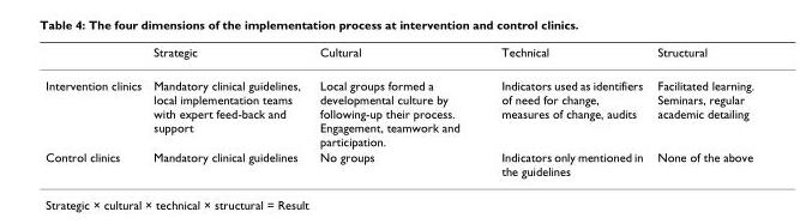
<table><thead><tr><td></td><td>Strategic</td><td>Cultural</td><td>Technical</td><td>Structural</td></tr></thead><tbody><tr><td>Intervention clinics</td><td>Mandatory clinical guidelines, local implementation teams with expert feed-back and support</td><td>Local groups formed a developmental culture by following-up their process. Engagement, teamwork and participation.</td><td>Indicators used as identifiers of need for change, measures of change, audits</td><td>Facilitated learning. Seminars, regular academic detailing</td></tr><tr><td>Control clinics</td><td>Mandatory clinical guidelines</td><td>No groups</td><td>Indicators only mentioned in the guidelines</td><td>None of the above</td></tr></tbody></table>